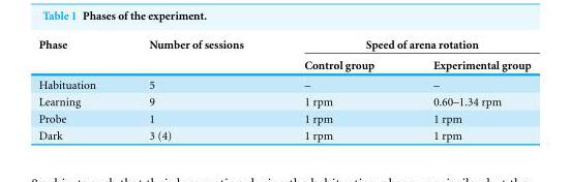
<table><thead><tr><td rowspan="2">Phase</td><td rowspan="2">Number of sessions</td><td colspan="2">Speed of arena rotation</td></tr><tr><td>Control group</td><td>Experimental group</td></tr></thead><tbody><tr><td>Habituation</td><td>5</td><td>–</td><td>–</td></tr><tr><td>Learning</td><td>9</td><td>1 rpm</td><td>0.60–1.34 rpm</td></tr><tr><td>Probe</td><td>1</td><td>1 rpm</td><td>1 rpm</td></tr><tr><td>Dark</td><td>3 (4)</td><td>1 rpm</td><td>1 rpm</td></tr></tbody></table>